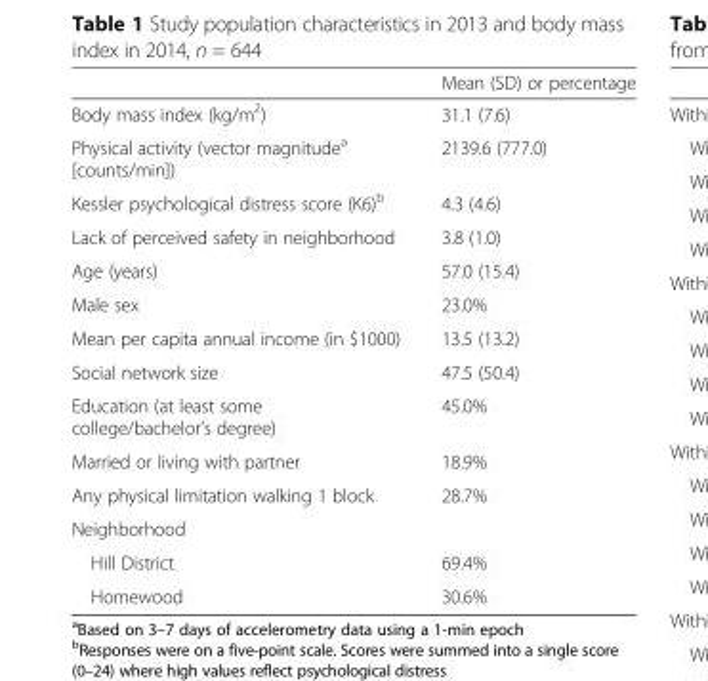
<table><thead><tr><td></td><td>Mean (SD) or percentage</td></tr></thead><tbody><tr><td>Body mass index (kg/m<sup>2</sup>)</td><td>31.1 (7.6)</td></tr><tr><td>Physical activity (vector magnitude<sup>a</sup> [counts/min])</td><td>2139.6 (777.0)</td></tr><tr><td>Kessler psychological distress score (K6)<sup>b</sup></td><td>4.3 (4.6)</td></tr><tr><td>Lack of perceived safety in neighborhood</td><td>3.8 (1.0)</td></tr><tr><td>Age (years)</td><td>57.0 (15.4)</td></tr><tr><td>Male sex</td><td>23.0%</td></tr><tr><td>Mean per capita annual income (in $1000)</td><td>13.5 (13.2)</td></tr><tr><td>Social network size</td><td>47.5 (50.4)</td></tr><tr><td>Education (at least some college/bachelor’s degree)</td><td>45.0%</td></tr><tr><td>Married or living with partner</td><td>18.9%</td></tr><tr><td>Any physical limitation walking 1 block</td><td>28.7%</td></tr><tr><td colspan="2">Neighborhood</td></tr><tr><td>Hill District</td><td>69.4%</td></tr><tr><td>Homewood</td><td>30.6%</td></tr></tbody></table>